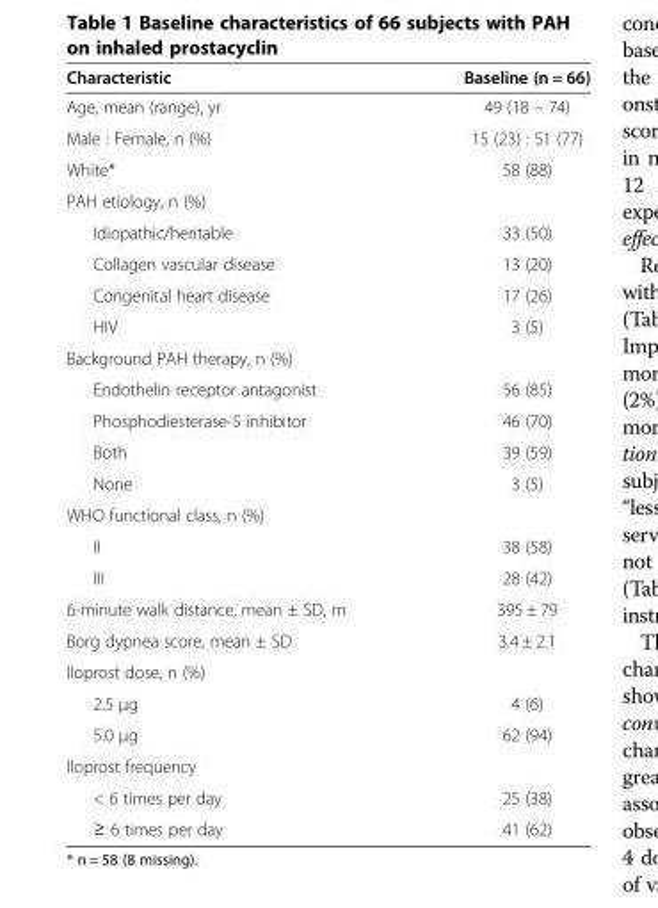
<table><thead><tr><td>Characteristic</td><td>Baseline (n = 66)</td></tr></thead><tbody><tr><td>Age, mean (range), yr</td><td>49 (18 – 74)</td></tr><tr><td>Male : Female, n (%)</td><td>15 (23) : 51 (77)</td></tr><tr><td>White*</td><td>58 (88)</td></tr><tr><td colspan="2">PAH etiology, n (%)</td></tr><tr><td>Idiopathic/heritable</td><td>33 (50)</td></tr><tr><td>Collagen vascular disease</td><td>13 (20)</td></tr><tr><td>Congenital heart disease</td><td>17 (26)</td></tr><tr><td>HIV</td><td>3 (5)</td></tr><tr><td colspan="2">Background PAH therapy, n (%)</td></tr><tr><td>Endothelin receptor antagonist</td><td>56 (85)</td></tr><tr><td>Phosphodiesterase-5 inhibitor</td><td>46 (70)</td></tr><tr><td>Both</td><td>39 (59)</td></tr><tr><td>None</td><td>3 (5)</td></tr><tr><td colspan="2">WHO functional class, n (%)</td></tr><tr><td>II</td><td>38 (58)</td></tr><tr><td>III</td><td>28 (42)</td></tr><tr><td>6-minute walk distance, mean ± SD, m</td><td>395 ± 79</td></tr><tr><td>Borg dypnea score, mean ± SD</td><td>3.4 ± 2.1</td></tr><tr><td colspan="2">Iloprost dose, n (%)</td></tr><tr><td>2.5 μg</td><td>4 (6)</td></tr><tr><td>5.0 μg</td><td>62 (94)</td></tr><tr><td colspan="2">Iloprost frequency</td></tr><tr><td>&lt; 6 times per day</td><td>25 (38)</td></tr><tr><td>≥ 6 times per day</td><td>41 (62)</td></tr></tbody></table>